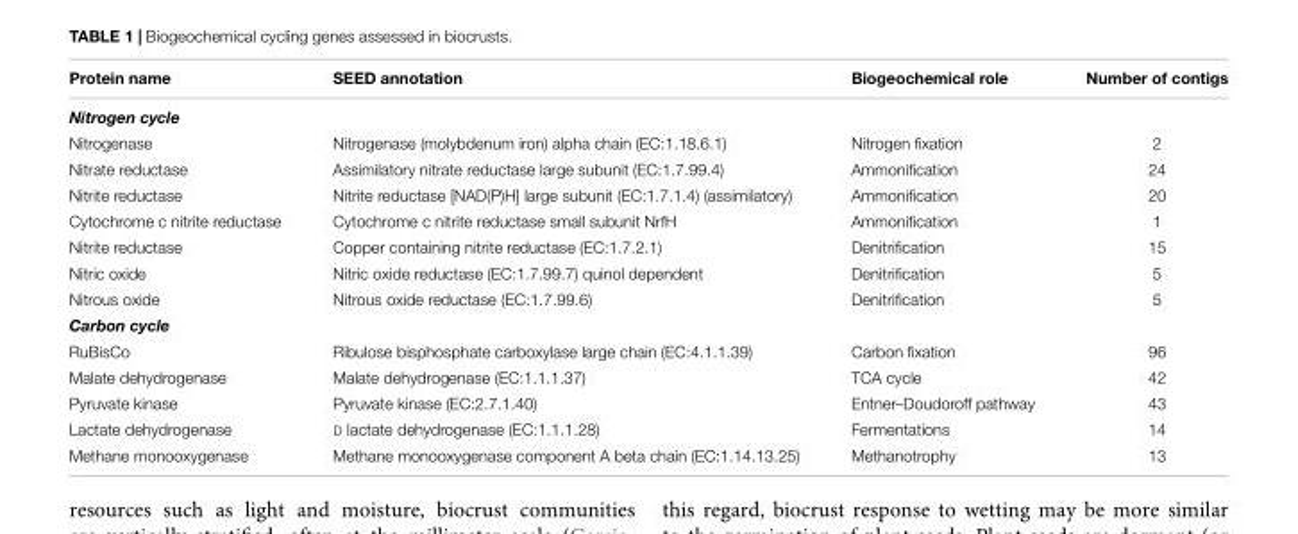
<table><thead><tr><td>Protein name</td><td>SEED annotation</td><td>Biogeochemical role</td><td>Number of contigs</td></tr></thead><tbody><tr><td colspan="4">Nitrogen cycle</td></tr><tr><td>Nitrogenase</td><td>Nitrogenase (molybdenum iron) alpha chain (EC:1.18.6.1)</td><td>Nitrogen fixation</td><td>2</td></tr><tr><td>Nitrate reductase</td><td>Assimilatory nitrate reductase large subunit (EC:1.7.99.4)</td><td>Ammonification</td><td>24</td></tr><tr><td>Nitrite reductase</td><td>Nitrite reductase [NAD(P)H] large subunit (EC:1.7.1.4) (assimilatory)</td><td>Ammonification</td><td>20</td></tr><tr><td>Cytochrome c nitrite reductase</td><td>Cytochrome c nitrite reductase small subunit NrfH</td><td>Ammonification</td><td>1</td></tr><tr><td>Nitrite reductase</td><td>Copper containing nitrite reductase (EC:1.7.2.1)</td><td>Denitrification</td><td>15</td></tr><tr><td>Nitric oxide</td><td>Nitric oxide reductase (EC:1.7.99.7) quinol dependent</td><td>Denitrification</td><td>5</td></tr><tr><td>Nitrous oxide</td><td>Nitrous oxide reductase (EC:1.7.99.6)</td><td>Denitrification</td><td>5</td></tr><tr><td colspan="4">Carbon cycle</td></tr><tr><td>RuBisCo</td><td>Ribulose bisphosphate carboxylase large chain (EC:4.1.1.39)</td><td>Carbon fixation</td><td>96</td></tr><tr><td>Malate dehydrogenase</td><td>Malate dehydrogenase (EC:1.1.1.37)</td><td>TCA cycle</td><td>42</td></tr><tr><td>Pyruvate kinase</td><td>Pyruvate kinase (EC:2.7.1.40)</td><td>Entner–Doudoroff pathway</td><td>43</td></tr><tr><td>Lactate dehydrogenase</td><td>D lactate dehydrogenase (EC:1.1.1.28)</td><td>Fermentations</td><td>14</td></tr><tr><td>Methane monooxygenase</td><td>Methane monooxygenase component A beta chain (EC:1.14.13.25)</td><td>Methanotrophy</td><td>13</td></tr></tbody></table>